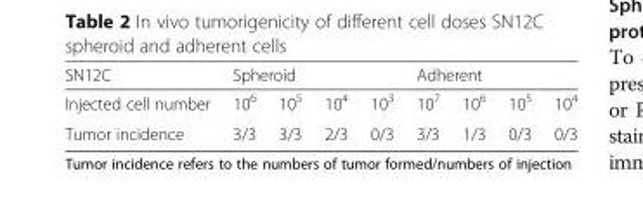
<table><thead><tr><td rowspan="2">SN12C Injected cell number</td><td colspan="4">Spheroid</td><td colspan="4">Adherent</td></tr><tr><td>10<sup>6</sup></td><td>10<sup>5</sup></td><td>10<sup>4</sup></td><td>10<sup>3</sup></td><td>10<sup>7</sup></td><td>10<sup>6</sup></td><td>10<sup>5</sup></td><td>10<sup>4</sup></td></tr></thead><tbody><tr><td>Tumor incidence</td><td>3/3</td><td>3/3</td><td>2/3</td><td>0/3</td><td>3/3</td><td>1/3</td><td>0/3</td><td>0/3</td></tr></tbody></table>